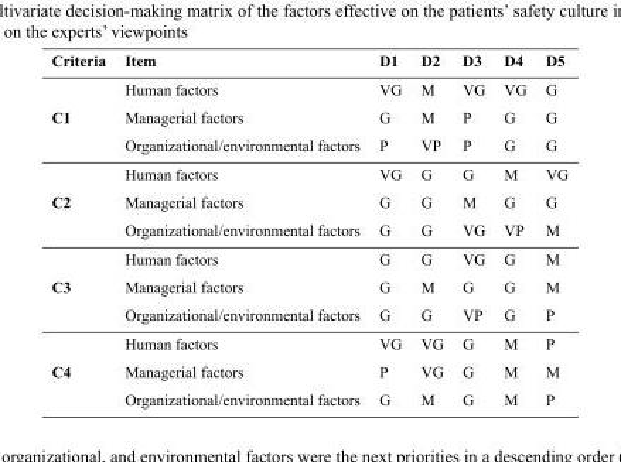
<table><thead><tr><td>Criteria</td><td>Item</td><td>D1</td><td>D2</td><td>D3</td><td>D4</td><td>D5</td></tr></thead><tbody><tr><td rowspan="3">C1</td><td>Human factors</td><td>VG</td><td>M</td><td>VG</td><td>VG</td><td>G</td></tr><tr><td>Managerial factors</td><td>G</td><td>M</td><td>P</td><td>G</td><td>G</td></tr><tr><td>Organizational/environmental factors</td><td>P</td><td>VP</td><td>P</td><td>G</td><td>G</td></tr><tr><td rowspan="3">C2</td><td>Human factors</td><td>VG</td><td>G</td><td>G</td><td>M</td><td>VG</td></tr><tr><td>Managerial factors</td><td>G</td><td>G</td><td>M</td><td>G</td><td>G</td></tr><tr><td>Organizational/environmental factors</td><td>G</td><td>G</td><td>VG</td><td>VP</td><td>M</td></tr><tr><td rowspan="3">C3</td><td>Human factors</td><td>G</td><td>G</td><td>VG</td><td>G</td><td>M</td></tr><tr><td>Managerial factors</td><td>G</td><td>M</td><td>G</td><td>G</td><td>M</td></tr><tr><td>Organizational/environmental factors</td><td>G</td><td>G</td><td>VP</td><td>G</td><td>P</td></tr><tr><td rowspan="3">C4</td><td>Human factors</td><td>VG</td><td>VG</td><td>G</td><td>M</td><td>P</td></tr><tr><td>Managerial factors</td><td>P</td><td>VG</td><td>G</td><td>M</td><td>M</td></tr><tr><td>Organizational/environmental factors</td><td>G</td><td>M</td><td>G</td><td>M</td><td>P</td></tr></tbody></table>